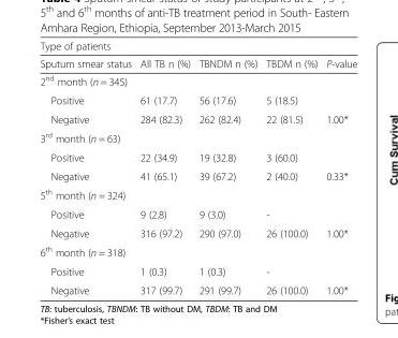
<table><thead><tr><td colspan="5">Type of patients</td></tr><tr><td>Sputum smear status</td><td>All TB n (%)</td><td>TBNDM n (%)</td><td>TBDM n (%)</td><td>P-value</td></tr></thead><tbody><tr><td colspan="5">2<sup>nd</sup> month (n = 345)</td></tr><tr><td>Positive</td><td>61 (17.7)</td><td>56 (17.6)</td><td>5 (18.5)</td><td></td></tr><tr><td>Negative</td><td>284 (82.3)</td><td>262 (82.4)</td><td>22 (81.5)</td><td>1.00*</td></tr><tr><td colspan="5">3<sup>rd</sup> month (n = 63)</td></tr><tr><td>Positive</td><td>22 (34.9)</td><td>19 (32.8)</td><td>3 (60.0)</td><td></td></tr><tr><td>Negative</td><td>41 (65.1)</td><td>39 (67.2)</td><td>2 (40.0)</td><td>0.33*</td></tr><tr><td colspan="5">5<sup>th</sup> month (n = 324)</td></tr><tr><td>Positive</td><td>9 (2.8)</td><td>9 (3.0)</td><td>-</td><td></td></tr><tr><td>Negative</td><td>316 (97.2)</td><td>290 (97.0)</td><td>26 (100.0)</td><td>1.00*</td></tr><tr><td colspan="5">6<sup>th</sup> month (n = 318)</td></tr><tr><td>Positive</td><td>1 (0.3)</td><td>1 (0.3)</td><td>-</td><td></td></tr><tr><td>Negative</td><td>317 (99.7)</td><td>291 (99.7)</td><td>26 (100.0)</td><td>1.00*</td></tr></tbody></table>